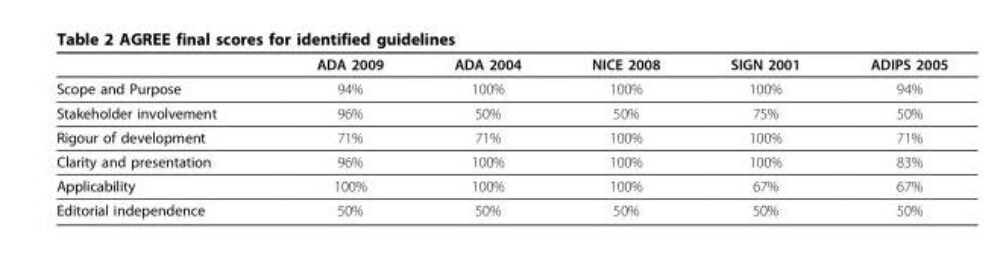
<table><thead><tr><td></td><td>ADA 2009</td><td>ADA 2004</td><td>NICE 2008</td><td>SIGN 2001</td><td>ADIPS 2005</td></tr></thead><tbody><tr><td>Scope and Purpose</td><td>94%</td><td>100%</td><td>100%</td><td>100%</td><td>94%</td></tr><tr><td>Stakeholder involvement</td><td>96%</td><td>50%</td><td>50%</td><td>75%</td><td>50%</td></tr><tr><td>Rigour of development</td><td>71%</td><td>71%</td><td>100%</td><td>100%</td><td>71%</td></tr><tr><td>Clarity and presentation</td><td>96%</td><td>100%</td><td>100%</td><td>100%</td><td>83%</td></tr><tr><td>Applicability</td><td>100%</td><td>100%</td><td>100%</td><td>67%</td><td>67%</td></tr><tr><td>Editorial independence</td><td>50%</td><td>50%</td><td>50%</td><td>50%</td><td>50%</td></tr></tbody></table>